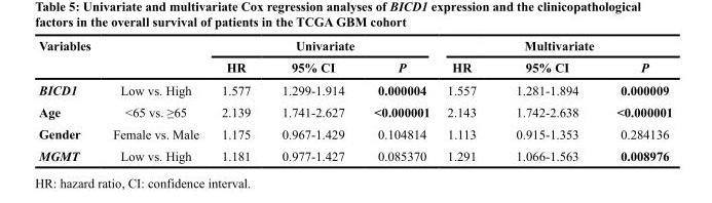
<table><thead><tr><td rowspan="2">Variables</td><td rowspan="2"></td><td colspan="3">Univariate</td><td colspan="3">Multivariate</td></tr><tr><td>HR</td><td>95% CI</td><td>P</td><td>HR</td><td>95% CI</td><td>P</td></tr></thead><tbody><tr><td>BICD1</td><td>Low vs. High</td><td>1.577</td><td>1.299-1.914</td><td>0.000004</td><td>1.557</td><td>1.281-1.894</td><td>0.000009</td></tr><tr><td>Age</td><td>&lt;65 vs. ≥65</td><td>2.139</td><td>1.741-2.627</td><td>&lt;0.000001</td><td>2.143</td><td>1.742-2.638</td><td>&lt;0.000001</td></tr><tr><td>Gender</td><td>Female vs. Male</td><td>1.175</td><td>0.967-1.429</td><td>0.104814</td><td>1.113</td><td>0.915-1.353</td><td>0.284136</td></tr><tr><td>MGMT</td><td>Low vs. High</td><td>1.181</td><td>0.977-1.427</td><td>0.085370</td><td>1.291</td><td>1.066-1.563</td><td>0.008976</td></tr></tbody></table>